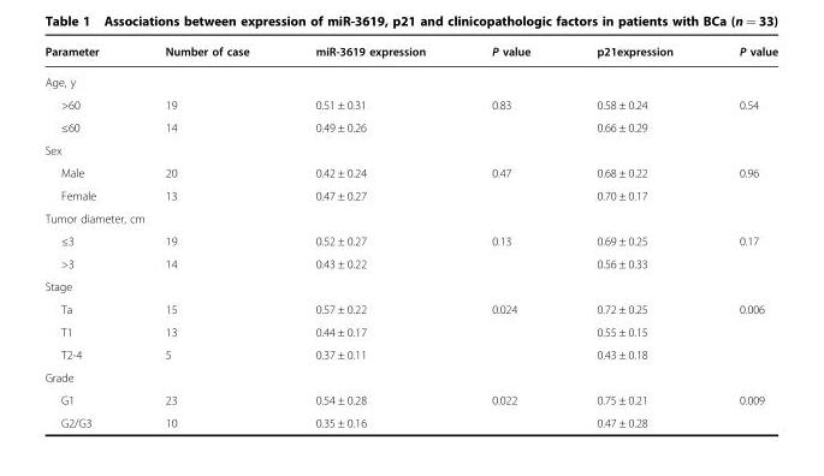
<table><thead><tr><td>Parameter</td><td>Number of case</td><td>miR-3619 expression</td><td>P value</td><td>p21expression</td><td>P value</td></tr></thead><tbody><tr><td colspan="6">Age, y</td></tr><tr><td>&gt;60</td><td>19</td><td>0.51 ± 0.31</td><td rowspan="2">0.83</td><td>0.58 ± 0.24</td><td rowspan="2">0.54</td></tr><tr><td>≤60</td><td>14</td><td>0.49 ± 0.26</td><td>0.66 ± 0.29</td></tr><tr><td colspan="6">Sex</td></tr><tr><td>Male</td><td>20</td><td>0.42 ± 0.24</td><td rowspan="2">0.47</td><td>0.68 ± 0.22</td><td rowspan="2">0.96</td></tr><tr><td>Female</td><td>13</td><td>0.47 ± 0.27</td><td>0.70 ± 0.17</td></tr><tr><td colspan="6">Tumor diameter, cm</td></tr><tr><td>≤3</td><td>19</td><td>0.52 ± 0.27</td><td rowspan="2">0.13</td><td>0.69 ± 0.25</td><td rowspan="2">0.17</td></tr><tr><td>&gt;3</td><td>14</td><td>0.43 ± 0.22</td><td>0.56 ± 0.33</td></tr><tr><td colspan="6">Stage</td></tr><tr><td>Ta</td><td>15</td><td>0.57 ± 0.22</td><td rowspan="3">0.024</td><td>0.72 ± 0.25</td><td rowspan="3">0.006</td></tr><tr><td>T1</td><td>13</td><td>0.44 ± 0.17</td><td>0.55 ± 0.15</td></tr><tr><td>T2-4</td><td>5</td><td>0.37 ± 0.11</td><td>0.43 ± 0.18</td></tr><tr><td colspan="6">Grade</td></tr><tr><td>G1</td><td>23</td><td>0.54 ± 0.28</td><td rowspan="2">0.022</td><td>0.75 ± 0.21</td><td rowspan="2">0.009</td></tr><tr><td>G2/G3</td><td>10</td><td>0.35 ± 0.16</td><td>0.47 ± 0.28</td></tr></tbody></table>